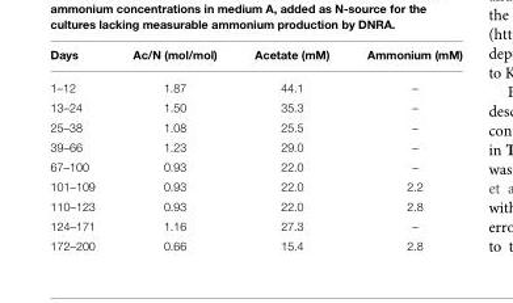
<table><thead><tr><td>Days</td><td>Ac/N (mol/mol)</td><td>Acetate (mM)</td><td>Ammonium (mM)</td></tr></thead><tbody><tr><td>1–12</td><td>1.87</td><td>44.1</td><td>–</td></tr><tr><td>13–24</td><td>1.50</td><td>35.3</td><td>–</td></tr><tr><td>25–38</td><td>1.08</td><td>25.5</td><td>–</td></tr><tr><td>39–66</td><td>1.23</td><td>29.0</td><td>–</td></tr><tr><td>67–100</td><td>0.93</td><td>22.0</td><td>–</td></tr><tr><td>101–109</td><td>0.93</td><td>22.0</td><td>2.2</td></tr><tr><td>110–123</td><td>0.93</td><td>22.0</td><td>2.8</td></tr><tr><td>124–171</td><td>1.16</td><td>27.3</td><td>–</td></tr><tr><td>172–200</td><td>0.66</td><td>15.4</td><td>2.8</td></tr></tbody></table>